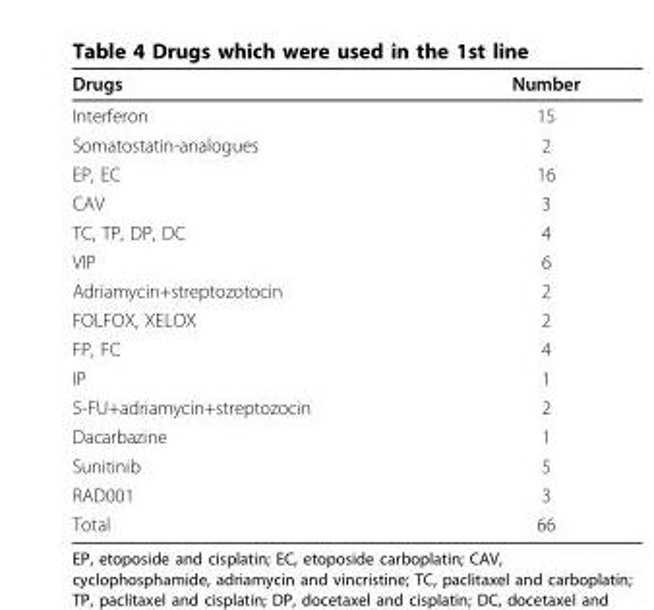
<table><thead><tr><td>Drugs</td><td>Number</td></tr></thead><tbody><tr><td>Interferon</td><td>15</td></tr><tr><td>Somatostatin-analogues</td><td>2</td></tr><tr><td>EP, EC</td><td>16</td></tr><tr><td>CAV</td><td>3</td></tr><tr><td>TC, TP, DP, DC</td><td>4</td></tr><tr><td>VIP</td><td>6</td></tr><tr><td>Adriamycin+streptozotocin</td><td>2</td></tr><tr><td>FOLFOX, XELOX</td><td>2</td></tr><tr><td>FP, FC</td><td>4</td></tr><tr><td>IP</td><td>1</td></tr><tr><td>5-FU+adriamycin+streptozocin</td><td>2</td></tr><tr><td>Dacarbazine</td><td>1</td></tr><tr><td>Sunitinib</td><td>5</td></tr><tr><td>RAD001</td><td>3</td></tr><tr><td>Total</td><td>66</td></tr></tbody></table>